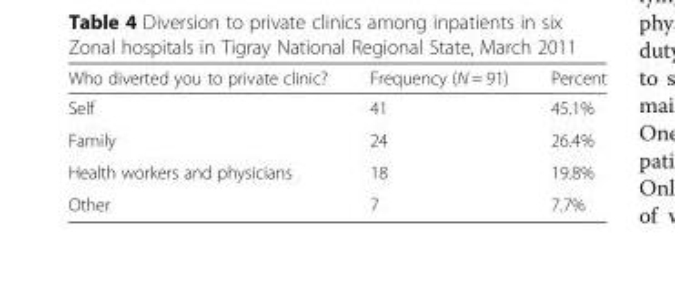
<table><thead><tr><td>Who diverted you to private clinic?</td><td>Frequency (N = 91)</td><td>Percent</td></tr></thead><tbody><tr><td>Self</td><td>41</td><td>45.1%</td></tr><tr><td>Family</td><td>24</td><td>26.4%</td></tr><tr><td>Health workers and physicians</td><td>18</td><td>19.8%</td></tr><tr><td>Other</td><td>7</td><td>7.7%</td></tr></tbody></table>